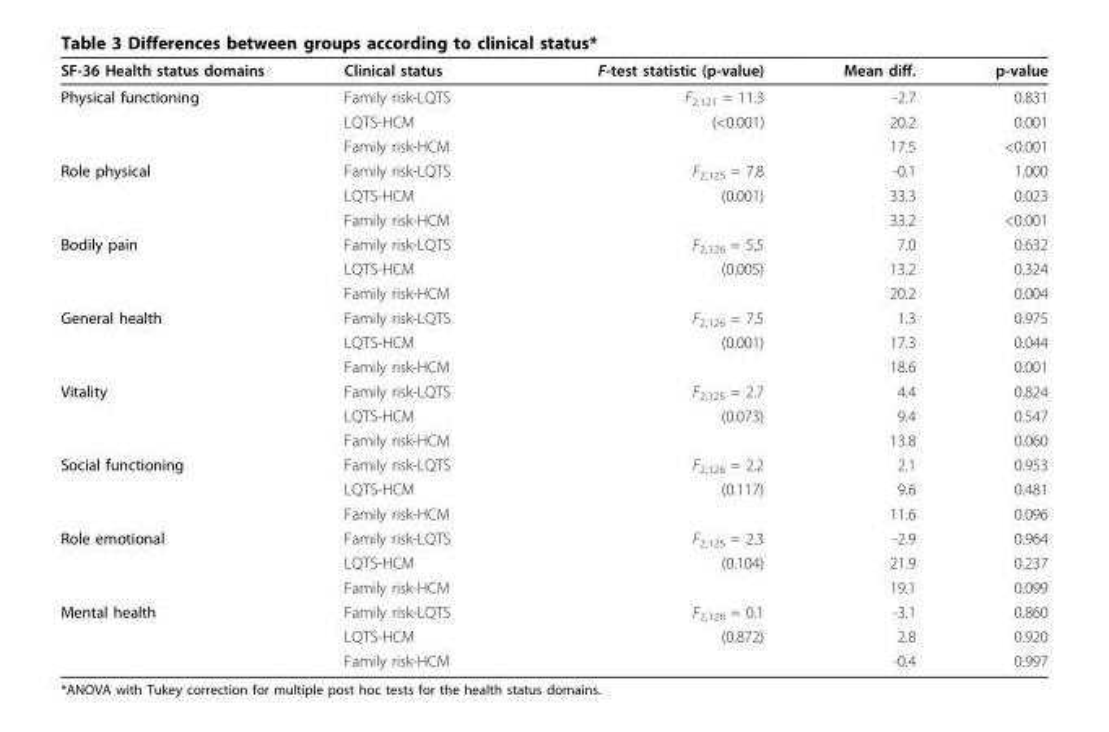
<table><thead><tr><td>SF-36 Health status domains</td><td>Clinical status</td><td>F-test statistic (p-value)</td><td>Mean diff.</td><td>p-value</td></tr></thead><tbody><tr><td rowspan="3">Physical functioning</td><td>Family risk-LQTS</td><td>F<sub>2,121</sub> = 11.3</td><td>-2.7</td><td>0.831</td></tr><tr><td>LQTS-HCM</td><td>(&lt;0.001)</td><td>20.2</td><td>0.001</td></tr><tr><td>Family risk-HCM</td><td></td><td>17.5</td><td>&lt;0.001</td></tr><tr><td rowspan="3">Role physical</td><td>Family risk-LQTS</td><td>F<sub>2,125</sub> = 7.8</td><td>-0.1</td><td>1.000</td></tr><tr><td>LQTS-HCM</td><td>(0.001)</td><td>33.3</td><td>0.023</td></tr><tr><td>Family risk-HCM</td><td></td><td>33.2</td><td>&lt;0.001</td></tr><tr><td rowspan="3">Bodily pain</td><td>Family risk-LQTS</td><td>F<sub>2,126</sub> = 5,5</td><td>7.0</td><td>0.632</td></tr><tr><td>LQTS-HCM</td><td>(0.005)</td><td>13.2</td><td>0.324</td></tr><tr><td>Family risk-HCM</td><td></td><td>20.2</td><td>0.004</td></tr><tr><td rowspan="3">General health</td><td>Family risk-LQTS</td><td>F<sub>2,126</sub> = 7.5</td><td>1.3</td><td>0.975</td></tr><tr><td>LQTS-HCM</td><td>(0.001)</td><td>17.3</td><td>0.044</td></tr><tr><td>Family risk-HCM</td><td></td><td>18.6</td><td>0.001</td></tr><tr><td rowspan="3">Vitality</td><td>Family risk-LQTS</td><td>F<sub>2,125</sub> = 2.7</td><td>4.4</td><td>0.824</td></tr><tr><td>LQTS-HCM</td><td>(0.073)</td><td>9.4</td><td>0.547</td></tr><tr><td>Family risk-HCM</td><td></td><td>13.8</td><td>0.060</td></tr><tr><td rowspan="3">Social functioning</td><td>Family risk-LQTS</td><td>F<sub>2,126</sub> = 2.2</td><td>2.1</td><td>0.953</td></tr><tr><td>LQTS-HCM</td><td>(0.117)</td><td>9.6</td><td>0.481</td></tr><tr><td>Family risk-HCM</td><td></td><td>11.6</td><td>0.096</td></tr><tr><td rowspan="3">Role emotional</td><td>Family risk-LQTS</td><td>F<sub>2,125</sub> = 2.3</td><td>-2.9</td><td>0.964</td></tr><tr><td>LQTS-HCM</td><td>(0.104)</td><td>21.9</td><td>0.237</td></tr><tr><td>Family risk-HCM</td><td></td><td>19.1</td><td>0.099</td></tr><tr><td rowspan="3">Mental health</td><td>Family risk-LQTS</td><td>F<sub>2,126</sub> = 0.1</td><td>-3.1</td><td>0.860</td></tr><tr><td>LQTS-HCM</td><td>(0.872)</td><td>2.8</td><td>0.920</td></tr><tr><td>Family risk-HCM</td><td></td><td>-0.4</td><td>0.997</td></tr></tbody></table>